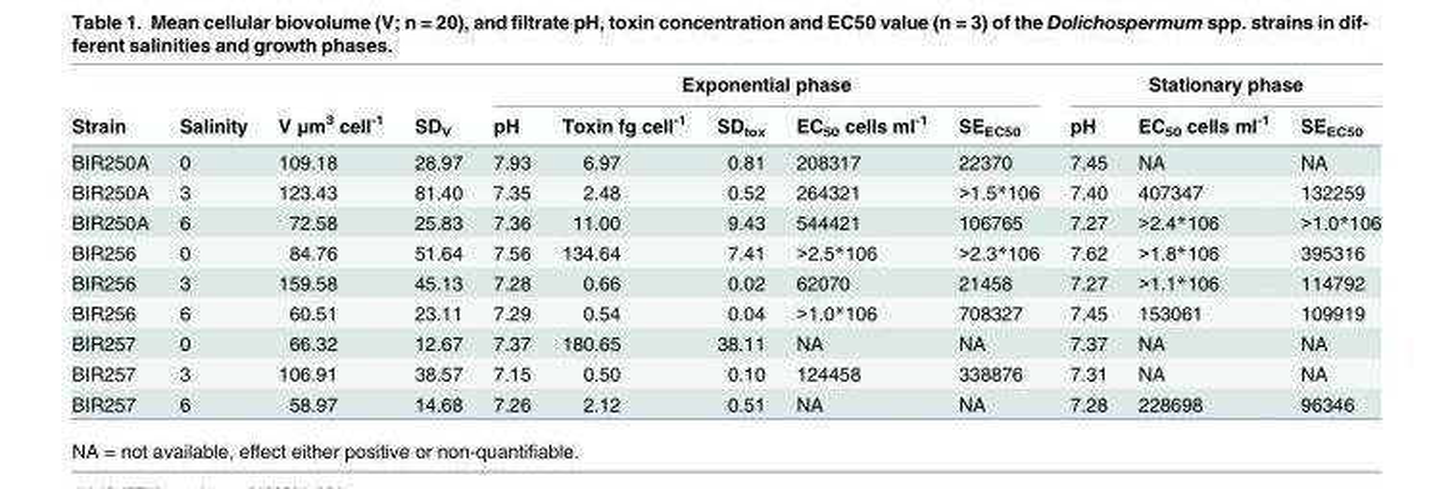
<table><thead><tr><td rowspan="2">Strain</td><td rowspan="2">Salinity</td><td rowspan="2">V μm<sup>3</sup> cell<sup>-1</sup></td><td rowspan="2">SD<sub>V</sub></td><td colspan="5">Exponential phase</td><td colspan="3">Stationary phase</td></tr><tr><td>pH</td><td>Toxin fg cell<sup>-1</sup></td><td>SD<sub>tox</sub></td><td>EC<sub>50</sub> cells ml<sup>-1</sup></td><td>SE<sub>EC50</sub></td><td>pH</td><td>EC<sub>50</sub> cells ml<sup>-1</sup></td><td>SE<sub>EC50</sub></td></tr></thead><tbody><tr><td>BIR250A</td><td>0</td><td>109.18</td><td>28.97</td><td>7.93</td><td>6.97</td><td>0.81</td><td>208317</td><td>22370</td><td>7.45</td><td>NA</td><td>NA</td></tr><tr><td>BIR250A</td><td>3</td><td>123.43</td><td>81.40</td><td>7.35</td><td>2.48</td><td>0.52</td><td>264321</td><td>&gt;1.5*106</td><td>7.40</td><td>407347</td><td>132259</td></tr><tr><td>BIR250A</td><td>6</td><td>72.58</td><td>25.83</td><td>7.36</td><td>11.00</td><td>9.43</td><td>544421</td><td>106765</td><td>7.27</td><td>&gt;2.4*106</td><td>&gt;1.0*106</td></tr><tr><td>BIR256</td><td>0</td><td>84.76</td><td>51.64</td><td>7.56</td><td>134.64</td><td>7.41</td><td>&gt;2.5*106</td><td>&gt;2.3*106</td><td>7.62</td><td>&gt;1.8*106</td><td>395316</td></tr><tr><td>BIR256</td><td>3</td><td>159.58</td><td>45.13</td><td>7.28</td><td>0.66</td><td>0.02</td><td>62070</td><td>21458</td><td>7.27</td><td>&gt;1.1*106</td><td>114792</td></tr><tr><td>BIR256</td><td>6</td><td>60.51</td><td>23.11</td><td>7.29</td><td>0.54</td><td>0.04</td><td>&gt;1.0*106</td><td>708327</td><td>7.45</td><td>153061</td><td>109919</td></tr><tr><td>BIR257</td><td>0</td><td>66.32</td><td>12.67</td><td>7.37</td><td>180.65</td><td>38.11</td><td>NA</td><td>NA</td><td>7.37</td><td>NA</td><td>NA</td></tr><tr><td>BIR257</td><td>3</td><td>106.91</td><td>38.57</td><td>7.15</td><td>0.50</td><td>0.10</td><td>124458</td><td>338876</td><td>7.31</td><td>NA</td><td>NA</td></tr><tr><td>BIR257</td><td>6</td><td>58.97</td><td>14.68</td><td>7.26</td><td>2.12</td><td>0.51</td><td>NA</td><td>NA</td><td>7.28</td><td>228698</td><td>96346</td></tr></tbody></table>